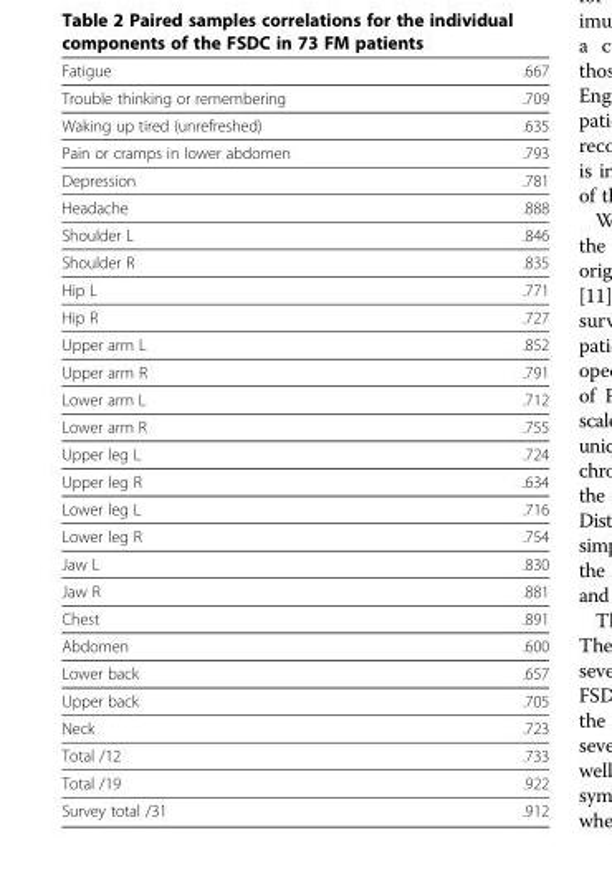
<table><tbody><tr><td>Fatigue</td><td>.667</td></tr><tr><td>Trouble thinking or remembering</td><td>.709</td></tr><tr><td>Waking up tired (unrefreshed)</td><td>.635</td></tr><tr><td>Pain or cramps in lower abdomen</td><td>.793</td></tr><tr><td>Depression</td><td>.781</td></tr><tr><td>Headache</td><td>.888</td></tr><tr><td>Shoulder L</td><td>.846</td></tr><tr><td>Shoulder R</td><td>.835</td></tr><tr><td>Hip L</td><td>.771</td></tr><tr><td>Hip R</td><td>.727</td></tr><tr><td>Upper arm L</td><td>.852</td></tr><tr><td>Upper arm R</td><td>.791</td></tr><tr><td>Lower arm L</td><td>.712</td></tr><tr><td>Lower arm R</td><td>.755</td></tr><tr><td>Upper leg L</td><td>.724</td></tr><tr><td>Upper leg R</td><td>.634</td></tr><tr><td>Lower leg L</td><td>.716</td></tr><tr><td>Lower leg R</td><td>.754</td></tr><tr><td>Jaw L</td><td>.830</td></tr><tr><td>Jaw R</td><td>.881</td></tr><tr><td>Chest</td><td>.891</td></tr><tr><td>Abdomen</td><td>.600</td></tr><tr><td>Lower back</td><td>.657</td></tr><tr><td>Upper back</td><td>.705</td></tr><tr><td>Neck</td><td>.723</td></tr><tr><td>Total /12</td><td>.733</td></tr><tr><td>Total /19</td><td>.922</td></tr><tr><td>Survey total /31</td><td>.912</td></tr></tbody></table>